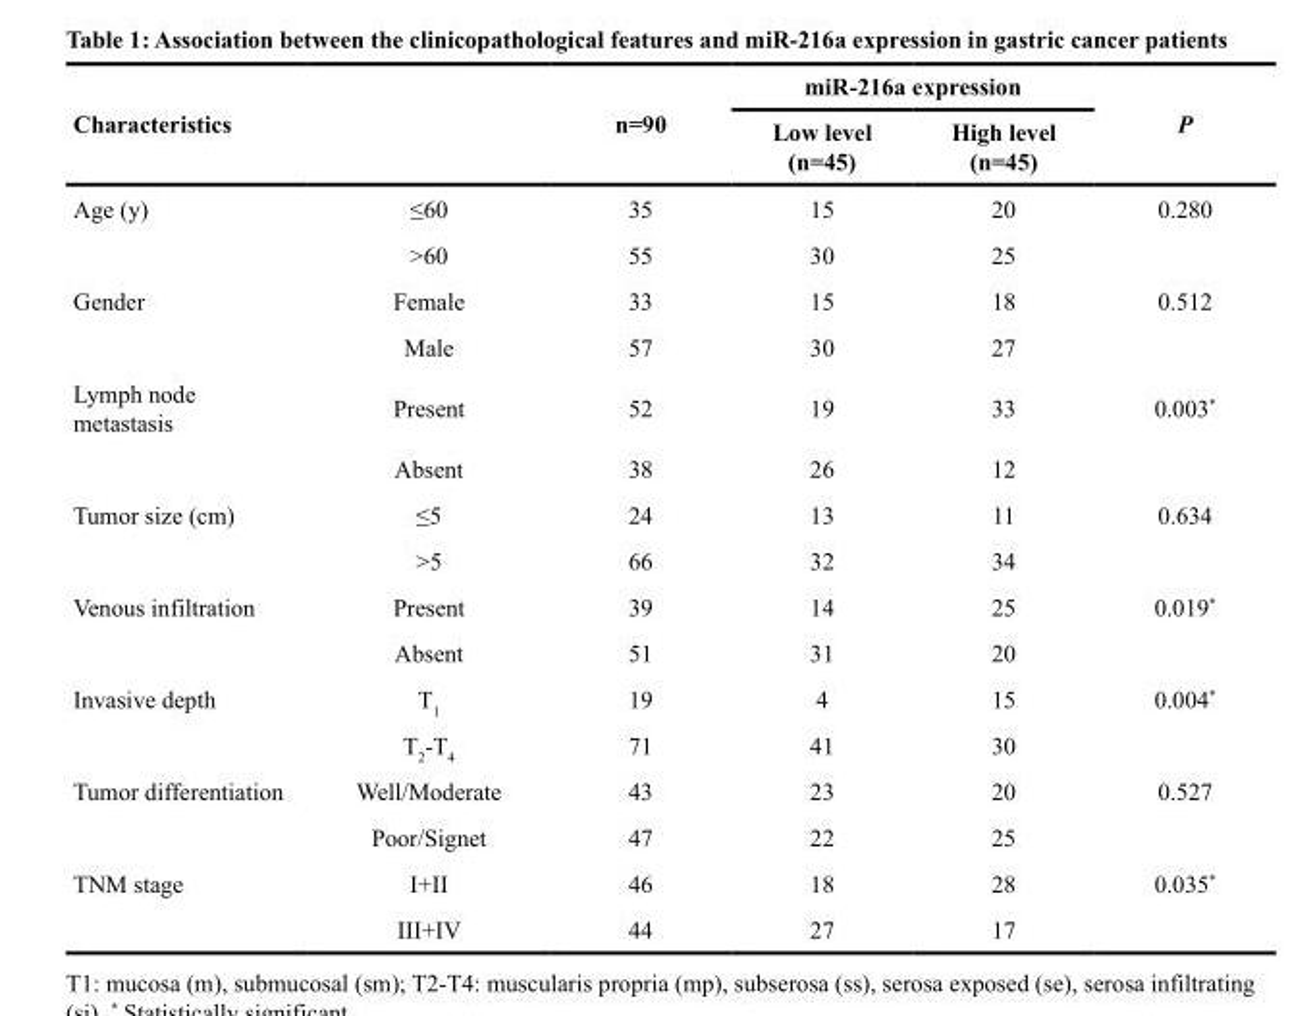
<table><thead><tr><td rowspan="2" colspan="2">Characteristics</td><td rowspan="3">n=90 35</td><td colspan="2">miR-216a expression</td><td rowspan="3">P 0.280</td></tr><tr><td rowspan="2">Low level (n=45) 15</td><td rowspan="2">High level (n=45) 20</td></tr><tr><td>Age (y)</td><td>≤60</td></tr></thead><tbody><tr><td></td><td>&gt;60</td><td>55</td><td>30</td><td>25</td><td></td></tr><tr><td rowspan="2">Gender</td><td>Female</td><td>33</td><td>15</td><td>18</td><td>0.512</td></tr><tr><td>Male</td><td>57</td><td>30</td><td>27</td><td></td></tr><tr><td rowspan="2">Lymph node metastasis</td><td>Present</td><td>52</td><td>19</td><td>33</td><td>0.003*</td></tr><tr><td>Absent</td><td>38</td><td>26</td><td>12</td><td></td></tr><tr><td rowspan="2">Tumor size (cm)</td><td>≤5</td><td>24</td><td>13</td><td>11</td><td>0.634</td></tr><tr><td>&gt;5</td><td>66</td><td>32</td><td>34</td><td></td></tr><tr><td rowspan="2">Venous infiltration</td><td>Present</td><td>39</td><td>14</td><td>25</td><td>0.019*</td></tr><tr><td>Absent</td><td>51</td><td>31</td><td>20</td><td></td></tr><tr><td rowspan="2">Invasive depth</td><td>T1</td><td>19</td><td>4</td><td>15</td><td>0.004*</td></tr><tr><td>T2-T4</td><td>71</td><td>41</td><td>30</td><td></td></tr><tr><td rowspan="2">Tumor differentiation</td><td>Well/Moderate</td><td>43</td><td>23</td><td>20</td><td>0.527</td></tr><tr><td>Poor/Signet</td><td>47</td><td>22</td><td>25</td><td></td></tr><tr><td rowspan="2">TNM stage</td><td>I+II</td><td>46</td><td>18</td><td>28</td><td>0.035*</td></tr><tr><td>III+IV</td><td>44</td><td>27</td><td>17</td><td></td></tr></tbody></table>